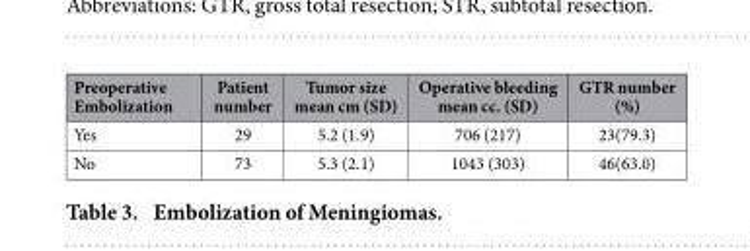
<table><thead><tr><td>Preoperative Embolization</td><td>Patient number</td><td>Tumor size mean cm (SD)</td><td>Operative bleeding mean cc. (SD)</td><td>GTR number (%)</td></tr></thead><tbody><tr><td>Yes</td><td>29</td><td>5.2 (1.9)</td><td>706 (217)</td><td>23(79.3)</td></tr><tr><td>No</td><td>73</td><td>5.3 (2.1)</td><td>1043 (303)</td><td>46(63.0)</td></tr></tbody></table>